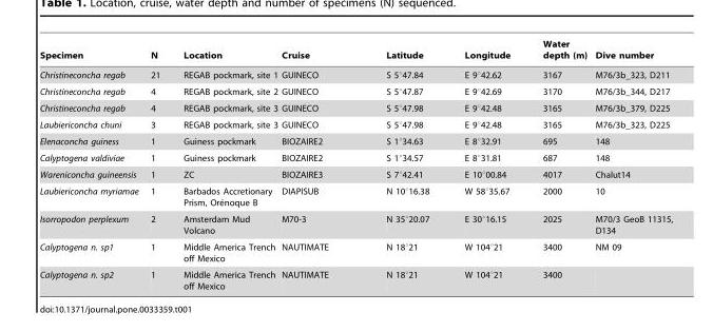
<table><thead><tr><td>Specimen</td><td>N</td><td>Location</td><td>Cruise</td><td>Latitude</td><td>Longitude</td><td>Water depth (m)</td><td>Dive number</td></tr></thead><tbody><tr><td>Christineconcha regab</td><td>21</td><td>REGAB pockmark, site 1</td><td>GUINECO</td><td>S 5°47.84</td><td>E 9°42.62</td><td>3167</td><td>M76/3b_323, D211</td></tr><tr><td>Christineconcha regab</td><td>4</td><td>REGAB pockmark, site 2</td><td>GUINECO</td><td>S 5°47.87</td><td>E 9°42.69</td><td>3170</td><td>M76/3b_344, D217</td></tr><tr><td>Christineconcha regab</td><td>4</td><td>REGAB pockmark, site 3</td><td>GUINECO</td><td>S 5°47.98</td><td>E 9°42.48</td><td>3165</td><td>M76/3b_379, D225</td></tr><tr><td>Laubiericoncha chuni</td><td>3</td><td>REGAB pockmark, site 3</td><td>GUINECO</td><td>S 5°47.98</td><td>E 9°42.48</td><td>3165</td><td>M76/3b_323, D225</td></tr><tr><td>Elenaconcha guiness</td><td>1</td><td>Guiness pockmark</td><td>BIOZAIRE2</td><td>S 1°34.63</td><td>E 8°32.91</td><td>695</td><td>148</td></tr><tr><td>Calyptogena valdiviae</td><td>1</td><td>Guiness pockmark</td><td>BIOZAIRE2</td><td>S 1°34.57</td><td>E 8°31.81</td><td>687</td><td>148</td></tr><tr><td>Wareniconcha guineensis</td><td>1</td><td>ZC</td><td>BIOZAIRE3</td><td>S 7°42.41</td><td>E 10°00.84</td><td>4017</td><td>Chalut14</td></tr><tr><td>Laubiericoncha myriamae</td><td>1</td><td>Barbados Accretionary Prism, Ore´noque B</td><td>DIAPISUB</td><td>N 10°16.38</td><td>W 58°35.67</td><td>2000</td><td>10</td></tr><tr><td>Isorropodon perplexum</td><td>2</td><td>Amsterdam Mud Volcano</td><td>M70-3</td><td>N 35°20.07</td><td>E 30°16.15</td><td>2025</td><td>M70/3 GeoB 11315, D134</td></tr><tr><td>Calyptogena n. sp1</td><td>1</td><td>Middle America Trench off Mexico</td><td>NAUTIMATE</td><td>N 18°21</td><td>W 104°21</td><td>3400</td><td>NM 09</td></tr><tr><td>Calyptogena n. sp2</td><td>1</td><td>Middle America Trench off Mexico</td><td>NAUTIMATE</td><td>N 18°21</td><td>W 104°21</td><td>3400</td><td></td></tr></tbody></table>